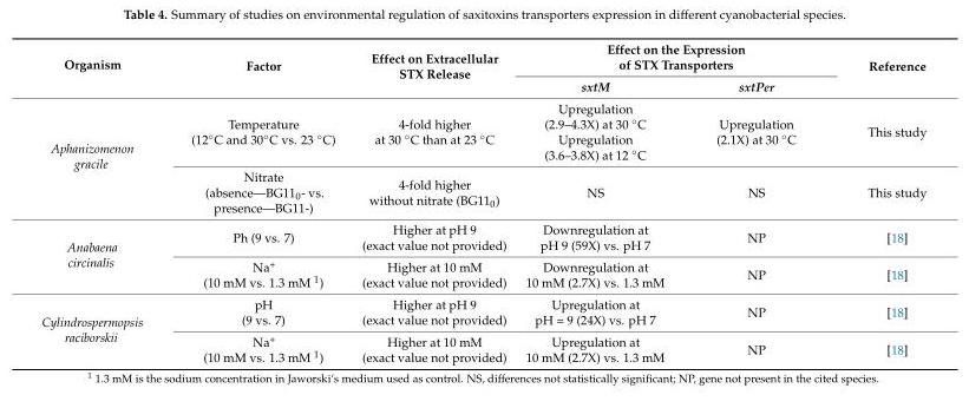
<table><thead><tr><td rowspan="2">Organism</td><td rowspan="2">Factor</td><td rowspan="2">Effect on Extracellular STX Release</td><td colspan="2">Effect on the Expression of STX Transporters</td><td rowspan="2">Reference</td></tr><tr><td>sxtM</td><td>sxtPer</td></tr></thead><tbody><tr><td rowspan="2">Aphanizomenon gracile</td><td>Temperature (12◦C and 30◦C vs. 23 ◦C)</td><td>4-fold higher at 30 ◦C than at 23 ◦C</td><td>Upregulation (2.9–4.3X) at 30 ◦C Upregulation (3.6–3.8X) at 12 ◦C</td><td>Upregulation (2.1X) at 30 ◦C</td><td>This study</td></tr><tr><td>Nitrate (absence—BG11<sub>0</sub>- vs. presence—BG11-)</td><td>4-fold higher without nitrate (BG11<sub>0</sub>)</td><td>NS</td><td>NS</td><td>This study</td></tr><tr><td rowspan="2">Anabaena circinalis</td><td>Ph (9 vs. 7)</td><td>Higher at pH 9 (exact value not provided)</td><td>Downregulation at pH 9 (59X) vs. pH 7</td><td>NP</td><td>[18]</td></tr><tr><td>Na<sup>+</sup> (10 mM vs. 1.3 mM <sup>1</sup>)</td><td>Higher at 10 mM (exact value not provided)</td><td>Downregulation at 10 mM (2.7X) vs. 1.3 mM</td><td>NP</td><td>[18]</td></tr><tr><td rowspan="2">Cylindrospermopsis raciborskii</td><td>pH (9 vs. 7)</td><td>Higher at pH 9 (exact value not provided)</td><td>Upregulation at pH = 9 (24X) vs. pH 7</td><td>NP</td><td>[18]</td></tr><tr><td>Na<sup>+</sup> (10 mM vs. 1.3 mM <sup>1</sup>)</td><td>Higher at 10 mM (exact value not provided)</td><td>Upregulation at 10 mM (2.7X) vs. 1.3 mM</td><td>NP</td><td>[18]</td></tr></tbody></table>